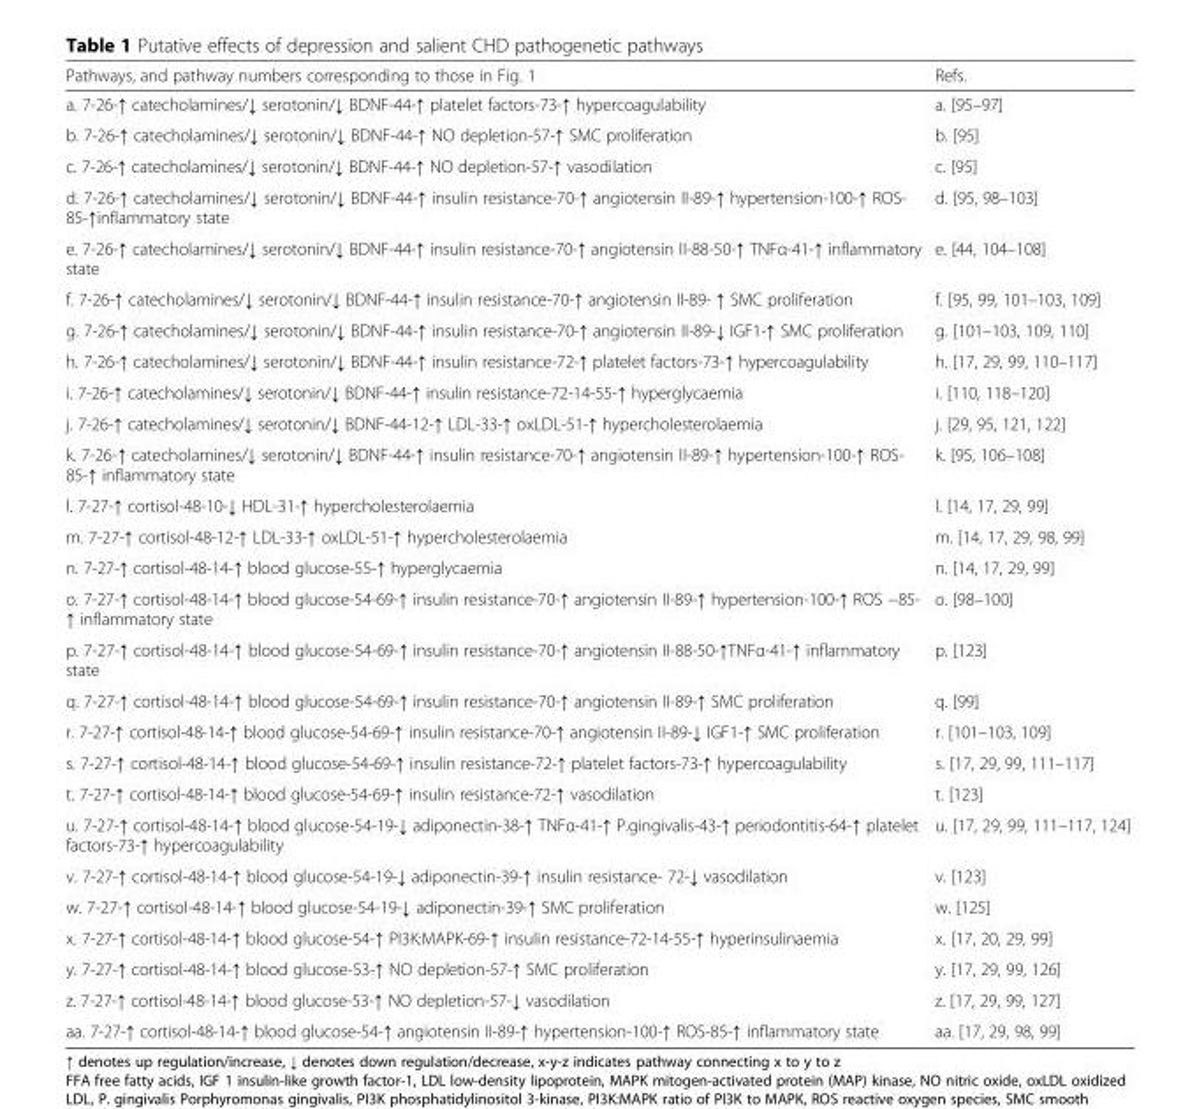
<table><thead><tr><td>Pathways, and pathway numbers corresponding to those in Fig. 1</td><td>Refs.</td></tr></thead><tbody><tr><td>a. 7-26-↑ catecholamines/↓ serotonin/↓ BDNF-44-↑ platelet factors-73-↑ hypercoagulability</td><td>a. [95–97]</td></tr><tr><td>b. 7-26-↑ catecholamines/↓ serotonin/↓ BDNF-44-↑ NO depletion-57-↑ SMC proliferation</td><td>b. [95]</td></tr><tr><td>c. 7-26-↑ catecholamines/↓ serotonin/↓ BDNF-44-↑ NO depletion-57-↑ vasodilation</td><td>c. [95]</td></tr><tr><td>d. 7-26-↑ catecholamines/↓ serotonin/↓ BDNF-44-↑ insulin resistance-70-↑ angiotensin II-89-↑ hypertension-100-↑ ROS- 85-↑inflammatory state</td><td>d. [95, 98–103]</td></tr><tr><td>e. 7-26-↑ catecholamines/↓ serotonin/↓ BDNF-44-↑ insulin resistance-70-↑ angiotensin II-88-50-↑ TNFα-41-↑ inflammatory state</td><td>e. [44, 104–108]</td></tr><tr><td>f. 7-26-↑ catecholamines/↓ serotonin/↓ BDNF-44-↑ insulin resistance-70-↑ angiotensin II-89- ↑ SMC proliferation</td><td>f. [95, 99, 101–103, 109]</td></tr><tr><td>g. 7-26-↑ catecholamines/↓ serotonin/↓ BDNF-44-↑ insulin resistance-70-↑ angiotensin II-89-↓ IGF1-↑ SMC proliferation</td><td>g. [101–103, 109, 110]</td></tr><tr><td>h. 7-26-↑ catecholamines/↓ serotonin/↓ BDNF-44-↑ insulin resistance-72-↑ platelet factors-73-↑ hypercoagulability</td><td>h. [17, 29, 99, 110–117]</td></tr><tr><td>i. 7-26-↑ catecholamines/↓ serotonin/↓ BDNF-44-↑ insulin resistance-72-14-55-↑ hyperglycaemia</td><td>i. [110, 118–120]</td></tr><tr><td>j. 7-26-↑ catecholamines/↓ serotonin/↓ BDNF-44-12-↑ LDL-33-↑ oxLDL-51-↑ hypercholesterolaemia</td><td>j. [29, 95, 121, 122]</td></tr><tr><td>k. 7-26-↑ catecholamines/↓ serotonin/↓ BDNF-44-↑ insulin resistance-70-↑ angiotensin II-89-↑ hypertension-100-↑ ROS- 85-↑ inflammatory state</td><td>k. [95, 106–108]</td></tr><tr><td>l. 7-27-↑ cortisol-48-10-↓ HDL-31-↑ hypercholesterolaemia</td><td>l. [14, 17, 29, 99]</td></tr><tr><td>m. 7-27-↑ cortisol-48-12-↑ LDL-33-↑ oxLDL-51-↑ hypercholesterolaemia</td><td>m. [14, 17, 29, 98, 99]</td></tr><tr><td>n. 7-27-↑ cortisol-48-14-↑ blood glucose-55-↑ hyperglycaemia</td><td>n. [14, 17, 29, 99]</td></tr><tr><td>o. 7-27-↑ cortisol-48-14-↑ blood glucose-54-69-↑ insulin resistance-70-↑ angiotensin II-89-↑ hypertension-100-↑ ROS −85- ↑ inflammatory state</td><td>o. [98–100]</td></tr><tr><td>p. 7-27-↑ cortisol-48-14-↑ blood glucose-54-69-↑ insulin resistance-70-↑ angiotensin II-88-50-↑TNFα-41-↑ inflammatory state</td><td>p. [123]</td></tr><tr><td>q. 7-27-↑ cortisol-48-14-↑ blood glucose-54-69-↑ insulin resistance-70-↑ angiotensin II-89-↑ SMC proliferation</td><td>q. [99]</td></tr><tr><td>r. 7-27-↑ cortisol-48-14-↑ blood glucose-54-69-↑ insulin resistance-70-↑ angiotensin II-89-↓ IGF1-↑ SMC proliferation</td><td>r. [101–103, 109]</td></tr><tr><td>s. 7-27-↑ cortisol-48-14-↑ blood glucose-54-69-↑ insulin resistance-72-↑ platelet factors-73-↑ hypercoagulability</td><td>s. [17, 29, 99, 111–117]</td></tr><tr><td>t. 7-27-↑ cortisol-48-14-↑ blood glucose-54-69-↑ insulin resistance-72-↑ vasodilation</td><td>t. [123]</td></tr><tr><td>u. 7-27-↑ cortisol-48-14-↑ blood glucose-54-19-↓ adiponectin-38-↑ TNFα-41-↑ P.gingivalis-43-↑ periodontitis-64-↑ platelet factors-73-↑ hypercoagulability</td><td>u. [17, 29, 99, 111–117, 124]</td></tr><tr><td>v. 7-27-↑ cortisol-48-14-↑ blood glucose-54-19-↓ adiponectin-39-↑ insulin resistance- 72-↓ vasodilation</td><td>v. [123]</td></tr><tr><td>w. 7-27-↑ cortisol-48-14-↑ blood glucose-54-19-↓ adiponectin-39-↑ SMC proliferation</td><td>w. [125]</td></tr><tr><td>x. 7-27-↑ cortisol-48-14-↑ blood glucose-54-↑ PI3K:MAPK-69-↑ insulin resistance-72-14-55-↑ hyperinsulinaemia</td><td>x. [17, 20, 29, 99]</td></tr><tr><td>y. 7-27-↑ cortisol-48-14-↑ blood glucose-53-↑ NO depletion-57-↑ SMC proliferation</td><td>y. [17, 29, 99, 126]</td></tr><tr><td>z. 7-27-↑ cortisol-48-14-↑ blood glucose-53-↑ NO depletion-57-↓ vasodilation</td><td>z. [17, 29, 99, 127]</td></tr><tr><td>aa. 7-27-↑ cortisol-48-14-↑ blood glucose-54-↑ angiotensin II-89-↑ hypertension-100-↑ ROS-85-↑ inflammatory state</td><td>aa. [17, 29, 98, 99]</td></tr></tbody></table>